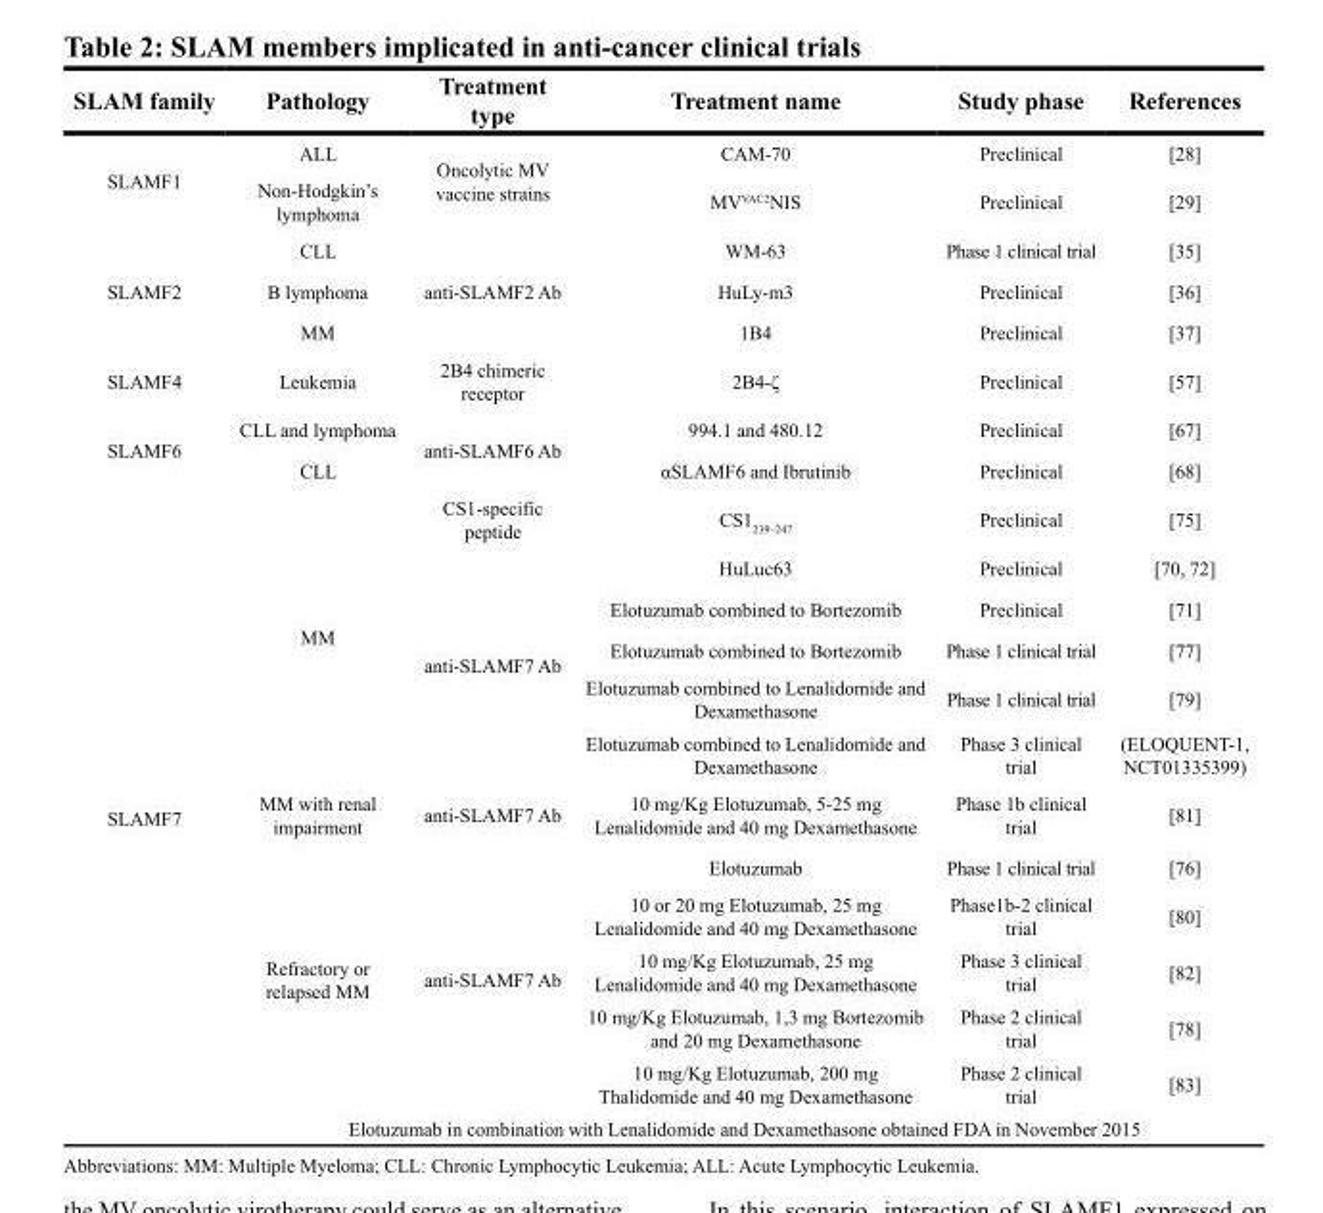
<table><thead><tr><td>SLAM family</td><td>Pathology</td><td>Treatment type</td><td>Treatment name</td><td>Study phase</td><td>References</td></tr></thead><tbody><tr><td rowspan="2">SLAMF1</td><td>ALL</td><td rowspan="2">Oncolytic MV vaccine strains</td><td>CAM-70</td><td>Preclinical</td><td>[28]</td></tr><tr><td>Non-Hodgkin’s lymphoma</td><td>MV<sup>VAC2</sup>NIS</td><td>Preclinical</td><td>[29]</td></tr><tr><td rowspan="3">SLAMF2</td><td>CLL</td><td rowspan="3">anti-SLAMF2 Ab</td><td>WM-63</td><td>Phase 1 clinical trial</td><td>[35]</td></tr><tr><td>B lymphoma</td><td>HuLy-m3</td><td>Preclinical</td><td>[36]</td></tr><tr><td>MM</td><td>1B4</td><td>Preclinical</td><td>[37]</td></tr><tr><td>SLAMF4</td><td>Leukemia</td><td>2B4 chimeric receptor</td><td>2B4-ζ</td><td>Preclinical</td><td>[57]</td></tr><tr><td rowspan="2">SLAMF6</td><td>CLL and lymphoma</td><td rowspan="2">anti-SLAMF6 Ab</td><td>994.1 and 480.12</td><td>Preclinical</td><td>[67]</td></tr><tr><td>CLL</td><td>αSLAMF6 and Ibrutinib</td><td>Preclinical</td><td>[68]</td></tr><tr><td rowspan="13">SLAMF7</td><td rowspan="6">MM</td><td>CS1-specific peptide</td><td>CS1<sub>239–247</sub></td><td>Preclinical</td><td>[75]</td></tr><tr><td rowspan="5">anti-SLAMF7 Ab</td><td>HuLuc63</td><td>Preclinical</td><td>[70, 72]</td></tr><tr><td>Elotuzumab combined to Bortezomib</td><td>Preclinical</td><td>[71]</td></tr><tr><td>Elotuzumab combined to Bortezomib</td><td>Phase 1 clinical trial</td><td>[77]</td></tr><tr><td>Elotuzumab combined to Lenalidomide and Dexamethasone</td><td>Phase 1 clinical trial</td><td>[79]</td></tr><tr><td>Elotuzumab combined to Lenalidomide and Dexamethasone</td><td>Phase 3 clinical trial</td><td>(ELOQUENT-1, NCT01335399)</td></tr><tr><td>MM with renal impairment</td><td>anti-SLAMF7 Ab</td><td>10 mg/Kg Elotuzumab, 5-25 mg Lenalidomide and 40 mg Dexamethasone</td><td>Phase 1b clinical trial</td><td>[81]</td></tr><tr><td rowspan="5">Refractory or relapsed MM</td><td rowspan="5">anti-SLAMF7 Ab</td><td>Elotuzumab</td><td>Phase 1 clinical trial</td><td>[76]</td></tr><tr><td>10 or 20 mg Elotuzumab, 25 mg Lenalidomide and 40 mg Dexamethasone</td><td>Phase1b-2 clinical trial</td><td>[80]</td></tr><tr><td>10 mg/Kg Elotuzumab, 25 mg Lenalidomide and 40 mg Dexamethasone</td><td>Phase 3 clinical trial</td><td>[82]</td></tr><tr><td>10 mg/Kg Elotuzumab, 1,3 mg Bortezomib and 20 mg Dexamethasone</td><td>Phase 2 clinical trial</td><td>[78]</td></tr><tr><td>10 mg/Kg Elotuzumab, 200 mg Thalidomide and 40 mg Dexamethasone</td><td>Phase 2 clinical trial</td><td>[83]</td></tr><tr><td colspan="5">Elotuzumab in combination with Lenalidomide and Dexamethasone obtained FDA in November 2015</td></tr></tbody></table>